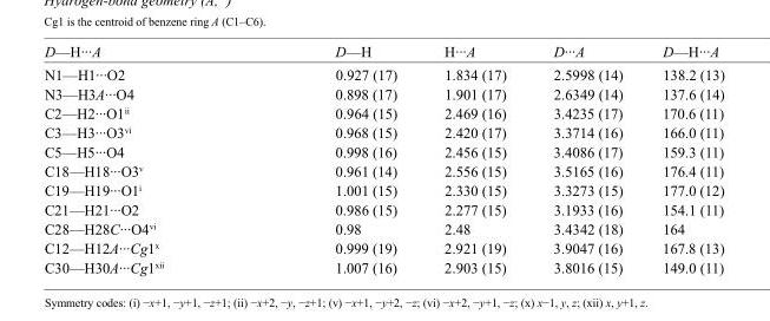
<table><tbody><tr><td>D—H···A</td><td>D—H</td><td>H···A</td><td>D···A</td><td>D—H···A</td></tr><tr><td>N1—H1···O2</td><td>0.927 (17)</td><td>1.834 (17)</td><td>2.5998 (14)</td><td>138.2 (13)</td></tr><tr><td>N3—H3A···O4</td><td>0.898 (17)</td><td>1.901 (17)</td><td>2.6349 (14)</td><td>137.6 (14)</td></tr><tr><td>C2—H2···O1<sup>ii</sup></td><td>0.964 (15)</td><td>2.469 (16)</td><td>3.4235 (17)</td><td>170.6 (11)</td></tr><tr><td>C3—H3···O3<sup>vi</sup></td><td>0.968 (15)</td><td>2.420 (17)</td><td>3.3714 (16)</td><td>166.0 (11)</td></tr><tr><td>C5—H5···O4</td><td>0.998 (16)</td><td>2.456 (15)</td><td>3.4086 (17)</td><td>159.3 (11)</td></tr><tr><td>C18—H18···O3<sup>v</sup></td><td>0.961 (14)</td><td>2.556 (15)</td><td>3.5165 (16)</td><td>176.4 (11)</td></tr><tr><td>C19—H19···O1<sup>i</sup></td><td>1.001 (15)</td><td>2.330 (15)</td><td>3.3273 (15)</td><td>177.0 (12)</td></tr><tr><td>C21—H21···O2</td><td>0.986 (15)</td><td>2.277 (15)</td><td>3.1933 (16)</td><td>154.1 (11)</td></tr><tr><td>C28—H28C···O4<sup>vi</sup></td><td>0.98</td><td>2.48</td><td>3.4342 (18)</td><td>164</td></tr><tr><td>C12—H12A···Cg1<sup>x</sup></td><td>0.999 (19)</td><td>2.921 (19)</td><td>3.9047 (16)</td><td>167.8 (13)</td></tr><tr><td>C30—H30A···Cg1<sup>xii</sup></td><td>1.007 (16)</td><td>2.903 (15)</td><td>3.8016 (15)</td><td>149.0 (11)</td></tr></tbody></table>